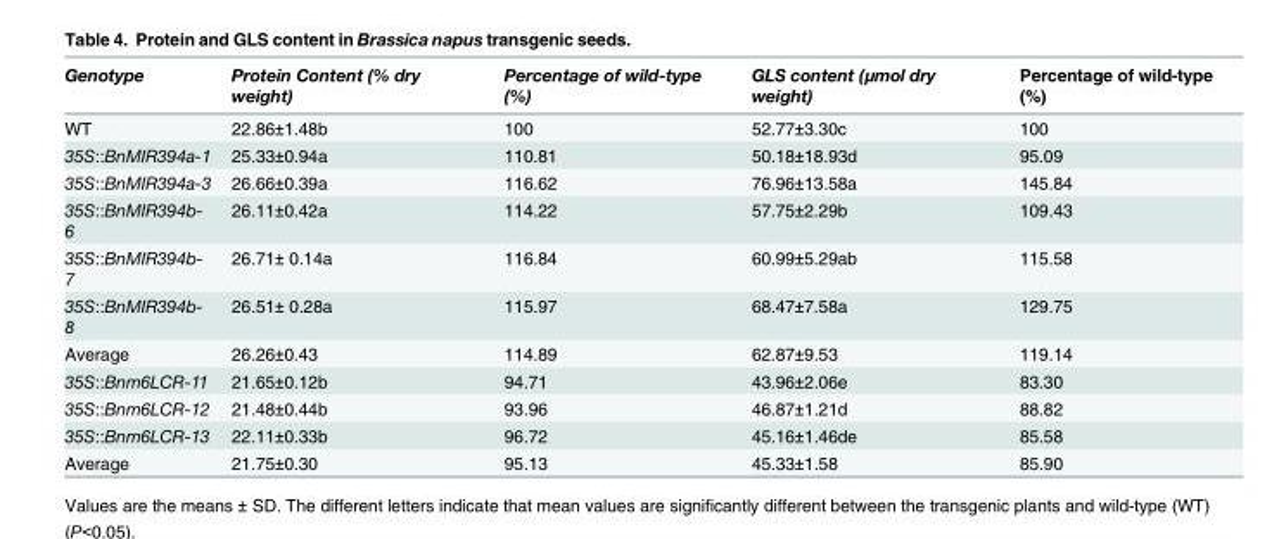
<table><thead><tr><td>Genotype</td><td>Protein Content (% dry weight)</td><td>Percentage of wild-type (%)</td><td>GLS content (μmol dry weight)</td><td>Percentage of wild-type (%)</td></tr></thead><tbody><tr><td>WT</td><td>22.86±1.48b</td><td>100</td><td>52.77±3.30c</td><td>100</td></tr><tr><td>35S::BnMIR394a-1</td><td>25.33±0.94a</td><td>110.81</td><td>50.18±18.93d</td><td>95.09</td></tr><tr><td>35S::BnMIR394a-3</td><td>26.66±0.39a</td><td>116.62</td><td>76.96±13.58a</td><td>145.84</td></tr><tr><td>35S::BnMIR394b- 6</td><td>26.11±0.42a</td><td>114.22</td><td>57.75±2.29b</td><td>109.43</td></tr><tr><td>35S::BnMIR394b- 7</td><td>26.71± 0.14a</td><td>116.84</td><td>60.99±5.29ab</td><td>115.58</td></tr><tr><td>35S::BnMIR394b- 8</td><td>26.51± 0.28a</td><td>115.97</td><td>68.47±7.58a</td><td>129.75</td></tr><tr><td>Average</td><td>26.26±0.43</td><td>114.89</td><td>62.87±9.53</td><td>119.14</td></tr><tr><td>35S::Bnm6LCR-11</td><td>21.65±0.12b</td><td>94.71</td><td>43.96±2.06e</td><td>83.30</td></tr><tr><td>35S::Bnm6LCR-12</td><td>21.48±0.44b</td><td>93.96</td><td>46.87±1.21d</td><td>88.82</td></tr><tr><td>35S::Bnm6LCR-13</td><td>22.11±0.33b</td><td>96.72</td><td>45.16±1.46de</td><td>85.58</td></tr><tr><td>Average</td><td>21.75±0.30</td><td>95.13</td><td>45.33±1.58</td><td>85.90</td></tr></tbody></table>